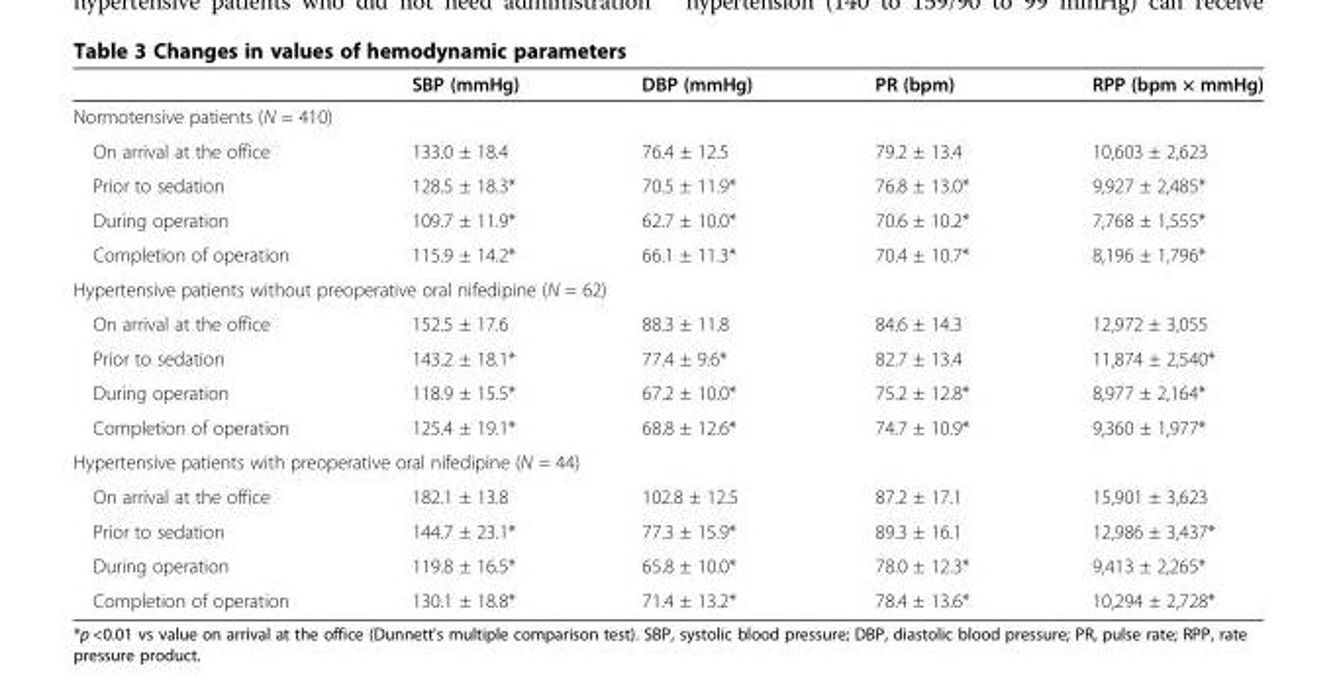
<table><thead><tr><td></td><td>SBP (mmHg)</td><td>DBP (mmHg)</td><td>PR (bpm)</td><td>RPP (bpm × mmHg)</td></tr></thead><tbody><tr><td colspan="5">Normotensive patients (N = 410)</td></tr><tr><td>On arrival at the office</td><td>133.0 ± 18.4</td><td>76.4 ± 12.5</td><td>79.2 ± 13.4</td><td>10,603 ± 2,623</td></tr><tr><td>Prior to sedation</td><td>128.5 ± 18.3*</td><td>70.5 ± 11.9*</td><td>76.8 ± 13.0*</td><td>9,927 ± 2,485*</td></tr><tr><td>During operation</td><td>109.7 ± 11.9*</td><td>62.7 ± 10.0*</td><td>70.6 ± 10.2*</td><td>7,768 ± 1,555*</td></tr><tr><td>Completion of operation</td><td>115.9 ± 14.2*</td><td>66.1 ± 11.3*</td><td>70.4 ± 10.7*</td><td>8,196 ± 1,796*</td></tr><tr><td colspan="5">Hypertensive patients without preoperative oral nifedipine (N = 62)</td></tr><tr><td>On arrival at the office</td><td>152.5 ± 17.6</td><td>88.3 ± 11.8</td><td>84.6 ± 14.3</td><td>12,972 ± 3,055</td></tr><tr><td>Prior to sedation</td><td>143.2 ± 18.1*</td><td>77.4 ± 9.6*</td><td>82.7 ± 13.4</td><td>11,874 ± 2,540*</td></tr><tr><td>During operation</td><td>118.9 ± 15.5*</td><td>67.2 ± 10.0*</td><td>75.2 ± 12.8*</td><td>8,977 ± 2,164*</td></tr><tr><td>Completion of operation</td><td>125.4 ± 19.1*</td><td>68.8 ± 12.6*</td><td>74.7 ± 10.9*</td><td>9,360 ± 1,977*</td></tr><tr><td colspan="5">Hypertensive patients with preoperative oral nifedipine (N = 44)</td></tr><tr><td>On arrival at the office</td><td>182.1 ± 13.8</td><td>102.8 ± 12.5</td><td>87.2 ± 17.1</td><td>15,901 ± 3,623</td></tr><tr><td>Prior to sedation</td><td>144.7 ± 23.1*</td><td>77.3 ± 15.9*</td><td>89.3 ± 16.1</td><td>12,986 ± 3,437*</td></tr><tr><td>During operation</td><td>119.8 ± 16.5*</td><td>65.8 ± 10.0*</td><td>78.0 ± 12.3*</td><td>9,413 ± 2,265*</td></tr><tr><td>Completion of operation</td><td>130.1 ± 18.8*</td><td>71.4 ± 13.2*</td><td>78.4 ± 13.6*</td><td>10,294 ± 2,728*</td></tr></tbody></table>